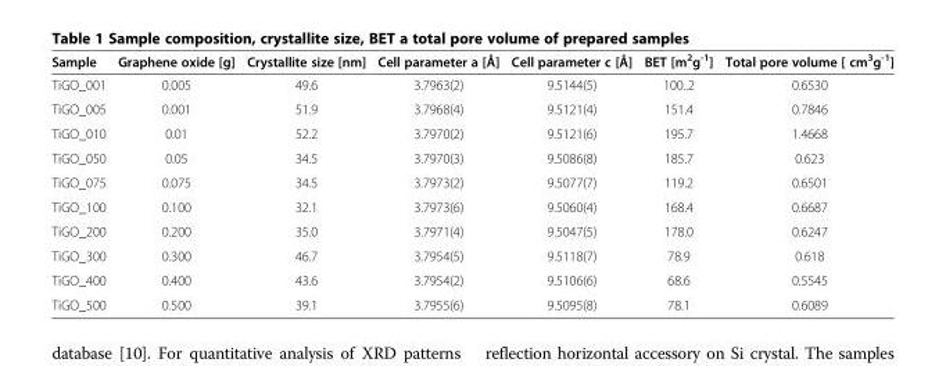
<table><thead><tr><td>Sample</td><td>Graphene oxide [g]</td><td>Crystallite size [nm]</td><td>Cell parameter a [Å]</td><td>Cell parameter c [Å]</td><td>BET [m<sup>2</sup>g<sup>-1</sup>]</td><td>Total pore volume [ cm<sup>3</sup>g<sup>-1</sup>]</td></tr></thead><tbody><tr><td>TiGO_001</td><td>0.005</td><td>49.6</td><td>3.7963(2)</td><td>9.5144(5)</td><td>100..2</td><td>0.6530</td></tr><tr><td>TiGO_005</td><td>0.001</td><td>51.9</td><td>3.7968(4)</td><td>9.5121(4)</td><td>151.4</td><td>0.7846</td></tr><tr><td>TiGO_010</td><td>0.01</td><td>52.2</td><td>3.7970(2)</td><td>9.5121(6)</td><td>195.7</td><td>1.4668</td></tr><tr><td>TiGO_050</td><td>0.05</td><td>34.5</td><td>3.7970(3)</td><td>9.5086(8)</td><td>185.7</td><td>0.623</td></tr><tr><td>TiGO_075</td><td>0.075</td><td>34.5</td><td>3.7973(2)</td><td>9.5077(7)</td><td>119.2</td><td>0.6501</td></tr><tr><td>TiGO_100</td><td>0.100</td><td>32.1</td><td>3.7973(6)</td><td>9.5060(4)</td><td>168.4</td><td>0.6687</td></tr><tr><td>TiGO_200</td><td>0.200</td><td>35.0</td><td>3.7971(4)</td><td>9.5047(5)</td><td>178.0</td><td>0.6247</td></tr><tr><td>TiGO_300</td><td>0.300</td><td>46.7</td><td>3.7954(5)</td><td>9.5118(7)</td><td>78.9</td><td>0.618</td></tr><tr><td>TiGO_400</td><td>0.400</td><td>43.6</td><td>3.7954(2)</td><td>9.5106(6)</td><td>68.6</td><td>0.5545</td></tr><tr><td>TiGO_500</td><td>0.500</td><td>39.1</td><td>3.7955(6)</td><td>9.5095(8)</td><td>78.1</td><td>0.6089</td></tr></tbody></table>